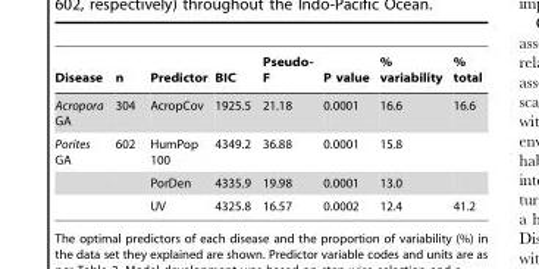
<table><thead><tr><td>Disease</td><td>n</td><td>Predictor</td><td>BIC</td><td>Pseudo- F</td><td>P value</td><td>% variability</td><td>% total</td></tr></thead><tbody><tr><td>Acropora GA</td><td>304</td><td>AcropCov</td><td>1925.5</td><td>21.18</td><td>0.0001</td><td>16.6</td><td>16.6</td></tr><tr><td rowspan="3">Porites GA</td><td>602</td><td>HumPop 100</td><td>4349.2</td><td>36.88</td><td>0.0001</td><td>15.8</td><td></td></tr><tr><td></td><td>PorDen</td><td>4335.9</td><td>19.98</td><td>0.0001</td><td>13.0</td><td></td></tr><tr><td></td><td>UV</td><td>4325.8</td><td>16.57</td><td>0.0002</td><td>12.4</td><td>41.2</td></tr></tbody></table>